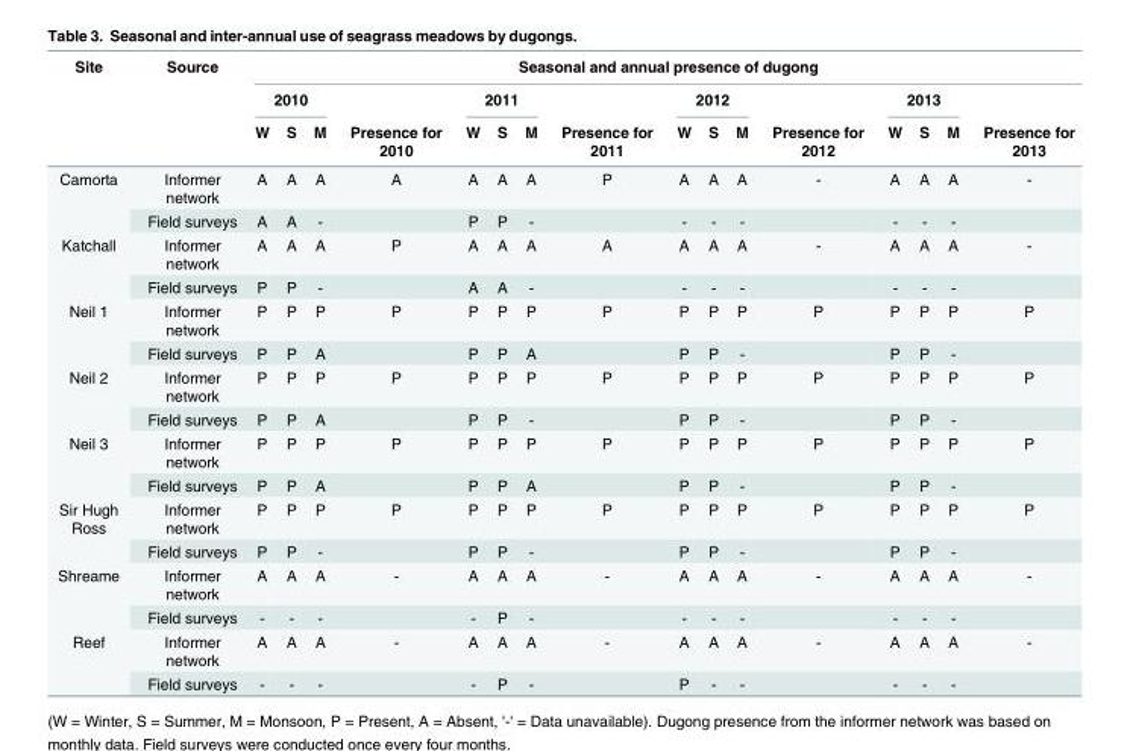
<table><thead><tr><td rowspan="3">Site</td><td rowspan="3">Source</td><td colspan="16">Seasonal and annual presence of dugong</td></tr><tr><td colspan="3">2010</td><td rowspan="2">Presence for 2010</td><td colspan="3">2011</td><td rowspan="2">Presence for 2011</td><td colspan="3">2012</td><td rowspan="2">Presence for 2012</td><td colspan="3">2013</td><td rowspan="2">Presence for 2013</td></tr><tr><td>W</td><td>S</td><td>M</td><td>W</td><td>S</td><td>M</td><td>W</td><td>S</td><td>M</td><td>W</td><td>S</td><td>M</td></tr></thead><tbody><tr><td rowspan="2">Camorta</td><td>Informer network</td><td>A</td><td>A</td><td>A</td><td>A</td><td>A</td><td>A</td><td>A</td><td>P</td><td>A</td><td>A</td><td>A</td><td>-</td><td>A</td><td>A</td><td>A</td><td>-</td></tr><tr><td>Field surveys</td><td>A</td><td>A</td><td>-</td><td></td><td>P</td><td>P</td><td>-</td><td></td><td>-</td><td>-</td><td>-</td><td></td><td>-</td><td>-</td><td>-</td><td></td></tr><tr><td rowspan="2">Katchall</td><td>Informer network</td><td>A</td><td>A</td><td>A</td><td>P</td><td>A</td><td>A</td><td>A</td><td>A</td><td>A</td><td>A</td><td>A</td><td>-</td><td>A</td><td>A</td><td>A</td><td>-</td></tr><tr><td>Field surveys</td><td>P</td><td>P</td><td>-</td><td></td><td>A</td><td>A</td><td>-</td><td></td><td>-</td><td>-</td><td>-</td><td></td><td>-</td><td>-</td><td>-</td><td></td></tr><tr><td rowspan="2">Neil 1</td><td>Informer network</td><td>P</td><td>P</td><td>P</td><td>P</td><td>P</td><td>P</td><td>P</td><td>P</td><td>P</td><td>P</td><td>P</td><td>P</td><td>P</td><td>P</td><td>P</td><td>P</td></tr><tr><td>Field surveys</td><td>P</td><td>P</td><td>A</td><td></td><td>P</td><td>P</td><td>A</td><td></td><td>P</td><td>P</td><td>-</td><td></td><td>P</td><td>P</td><td>-</td><td></td></tr><tr><td rowspan="2">Neil 2</td><td>Informer network</td><td>P</td><td>P</td><td>P</td><td>P</td><td>P</td><td>P</td><td>P</td><td>P</td><td>P</td><td>P</td><td>P</td><td>P</td><td>P</td><td>P</td><td>P</td><td>P</td></tr><tr><td>Field surveys</td><td>P</td><td>P</td><td>A</td><td></td><td>P</td><td>P</td><td>-</td><td></td><td>P</td><td>P</td><td>-</td><td></td><td>P</td><td>P</td><td>-</td><td></td></tr><tr><td rowspan="2">Neil 3</td><td>Informer network</td><td>P</td><td>P</td><td>P</td><td>P</td><td>P</td><td>P</td><td>P</td><td>P</td><td>P</td><td>P</td><td>P</td><td>P</td><td>P</td><td>P</td><td>P</td><td>P</td></tr><tr><td>Field surveys</td><td>P</td><td>P</td><td>A</td><td></td><td>P</td><td>P</td><td>A</td><td></td><td>P</td><td>P</td><td>-</td><td></td><td>P</td><td>P</td><td>-</td><td></td></tr><tr><td rowspan="2">Sir Hugh Ross</td><td>Informer network</td><td>P</td><td>P</td><td>P</td><td>P</td><td>P</td><td>P</td><td>P</td><td>P</td><td>P</td><td>P</td><td>P</td><td>P</td><td>P</td><td>P</td><td>P</td><td>P</td></tr><tr><td>Field surveys</td><td>P</td><td>P</td><td>-</td><td></td><td>P</td><td>P</td><td>-</td><td></td><td>P</td><td>P</td><td>-</td><td></td><td>P</td><td>P</td><td>-</td><td></td></tr><tr><td rowspan="2">Shreame</td><td>Informer network</td><td>A</td><td>A</td><td>A</td><td>-</td><td>A</td><td>A</td><td>A</td><td>-</td><td>A</td><td>A</td><td>A</td><td>-</td><td>A</td><td>A</td><td>A</td><td>-</td></tr><tr><td>Field surveys</td><td>-</td><td>-</td><td>-</td><td></td><td>-</td><td>P</td><td>-</td><td></td><td>-</td><td>-</td><td>-</td><td></td><td>-</td><td>-</td><td>-</td><td></td></tr><tr><td rowspan="2">Reef</td><td>Informer network</td><td>A</td><td>A</td><td>A</td><td>-</td><td>A</td><td>A</td><td>A</td><td>-</td><td>A</td><td>A</td><td>A</td><td>-</td><td>A</td><td>A</td><td>A</td><td>-</td></tr><tr><td>Field surveys</td><td>-</td><td>-</td><td>-</td><td></td><td>-</td><td>P</td><td>-</td><td></td><td>P</td><td>-</td><td>-</td><td></td><td>-</td><td>-</td><td>-</td><td></td></tr></tbody></table>